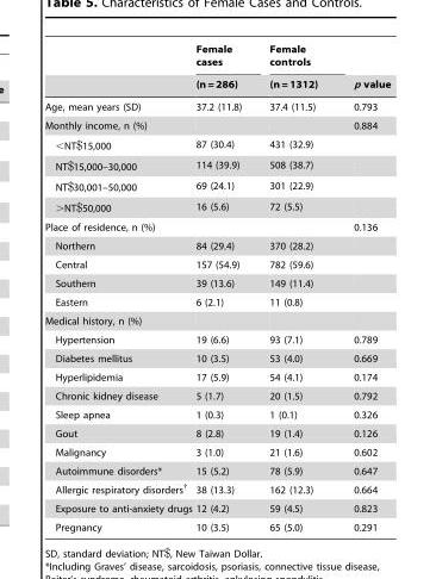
<table><thead><tr><td rowspan="2"></td><td rowspan="2">Female cases (n = 286)</td><td rowspan="2">Female controls (n = 1312)</td><td rowspan="2">p value</td></tr><tr></tr></thead><tbody><tr><td>Age, mean years (SD)</td><td>37.2 (11.8)</td><td>37.4 (11.5)</td><td>0.793</td></tr><tr><td>Monthly income, n (%)</td><td></td><td></td><td>0.884</td></tr><tr><td>&lt;NT$15,000</td><td>87 (30.4)</td><td>431 (32.9)</td><td></td></tr><tr><td>NT$15,000–30,000</td><td>114 (39.9)</td><td>508 (38.7)</td><td></td></tr><tr><td>NT$30,001–50,000</td><td>69 (24.1)</td><td>301 (22.9)</td><td></td></tr><tr><td>&gt;NT$50,000</td><td>16 (5.6)</td><td>72 (5.5)</td><td></td></tr><tr><td>Place of residence, n (%)</td><td></td><td></td><td>0.136</td></tr><tr><td>Northern</td><td>84 (29.4)</td><td>370 (28.2)</td><td></td></tr><tr><td>Central</td><td>157 (54.9)</td><td>782 (59.6)</td><td></td></tr><tr><td>Southern</td><td>39 (13.6)</td><td>149 (11.4)</td><td></td></tr><tr><td>Eastern</td><td>6 (2.1)</td><td>11 (0.8)</td><td></td></tr><tr><td colspan="4">Medical history, n (%)</td></tr><tr><td>Hypertension</td><td>19 (6.6)</td><td>93 (7.1)</td><td>0.789</td></tr><tr><td>Diabetes mellitus</td><td>10 (3.5)</td><td>53 (4.0)</td><td>0.669</td></tr><tr><td>Hyperlipidemia</td><td>17 (5.9)</td><td>54 (4.1)</td><td>0.174</td></tr><tr><td>Chronic kidney disease</td><td>5 (1.7)</td><td>20 (1.5)</td><td>0.792</td></tr><tr><td>Sleep apnea</td><td>1 (0.3)</td><td>1 (0.1)</td><td>0.326</td></tr><tr><td>Gout</td><td>8 (2.8)</td><td>19 (1.4)</td><td>0.126</td></tr><tr><td>Malignancy</td><td>3 (1.0)</td><td>21 (1.6)</td><td>0.602</td></tr><tr><td>Autoimmune disorders*</td><td>15 (5.2)</td><td>78 (5.9)</td><td>0.647</td></tr><tr><td>Allergic respiratory disorders†</td><td>38 (13.3)</td><td>162 (12.3)</td><td>0.664</td></tr><tr><td>Exposure to anti-anxiety drugs</td><td>12 (4.2)</td><td>59 (4.5)</td><td>0.823</td></tr><tr><td>Pregnancy</td><td>10 (3.5)</td><td>65 (5.0)</td><td>0.291</td></tr></tbody></table>